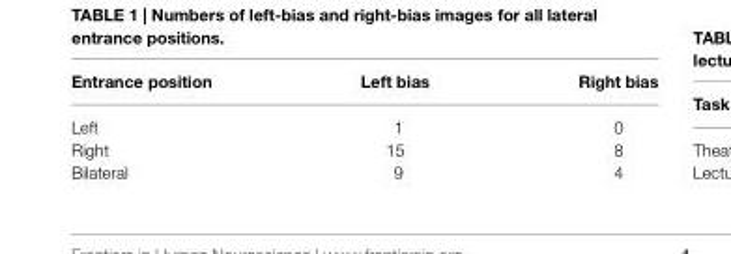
<table><thead><tr><td>Entrance position</td><td>Left bias</td><td>Right bias</td></tr></thead><tbody><tr><td>Left</td><td>1</td><td>0</td></tr><tr><td>Right</td><td>15</td><td>8</td></tr><tr><td>Bilateral</td><td>9</td><td>4</td></tr></tbody></table>